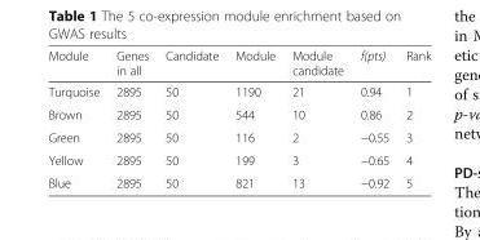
<table><thead><tr><td>Module</td><td>Genes in all</td><td>Candidate</td><td>Module</td><td>Module candidate</td><td>f(pts)</td><td>Rank</td></tr></thead><tbody><tr><td>Turquoise</td><td>2895</td><td>50</td><td>1190</td><td>21</td><td>0.94</td><td>1</td></tr><tr><td>Brown</td><td>2895</td><td>50</td><td>544</td><td>10</td><td>0.86</td><td>2</td></tr><tr><td>Green</td><td>2895</td><td>50</td><td>116</td><td>2</td><td>−0.55</td><td>3</td></tr><tr><td>Yellow</td><td>2895</td><td>50</td><td>199</td><td>3</td><td>−0.65</td><td>4</td></tr><tr><td>Blue</td><td>2895</td><td>50</td><td>821</td><td>13</td><td>−0.92</td><td>5</td></tr></tbody></table>